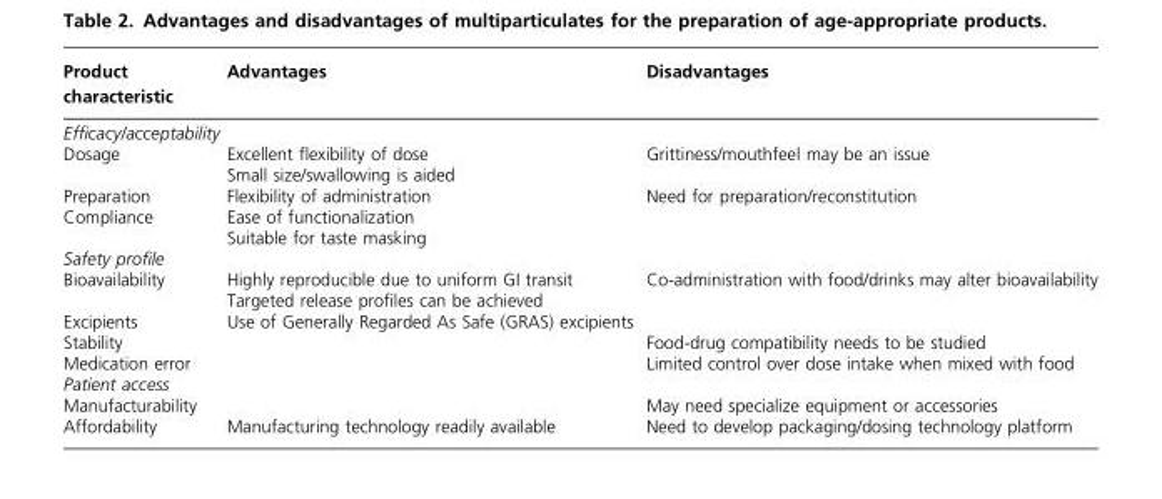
<table><thead><tr><td>Product characteristic</td><td>Advantages</td><td>Disadvantages</td></tr></thead><tbody><tr><td colspan="3">Efficacy/acceptability</td></tr><tr><td>Dosage</td><td>Excellent flexibility of dose Small size/swallowing is aided</td><td>Grittiness/mouthfeel may be an issue</td></tr><tr><td>Preparation</td><td>Flexibility of administration</td><td>Need for preparation/reconstitution</td></tr><tr><td>Compliance</td><td>Ease of functionalization Suitable for taste masking</td><td></td></tr><tr><td colspan="3">Safety profile</td></tr><tr><td>Bioavailability</td><td>Highly reproducible due to uniform GI transit Targeted release profiles can be achieved</td><td>Co-administration with food/drinks may alter bioavailability</td></tr><tr><td>Excipients</td><td>Use of Generally Regarded As Safe (GRAS) excipients</td><td></td></tr><tr><td>Stability</td><td></td><td>Food-drug compatibility needs to be studied</td></tr><tr><td>Medication error</td><td></td><td>Limited control over dose intake when mixed with food</td></tr><tr><td colspan="3">Patient access</td></tr><tr><td>Manufacturability</td><td></td><td>May need specialize equipment or accessories</td></tr><tr><td>Affordability</td><td>Manufacturing technology readily available</td><td>Need to develop packaging/dosing technology platform</td></tr></tbody></table>